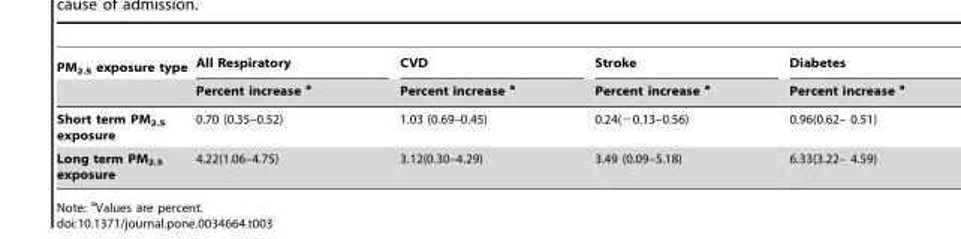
<table><thead><tr><td rowspan="2">PM<sub>2.5</sub> exposure type</td><td rowspan="2">All Respiratory Percent increase <sup>a</sup></td><td rowspan="2">CVD Percent increase <sup>a</sup></td><td rowspan="2">Stroke Percent increase <sup>a</sup></td><td rowspan="2">Diabetes Percent increase <sup>a</sup></td></tr><tr></tr></thead><tbody><tr><td>Short term PM<sub>2.5</sub> exposure</td><td>0.70 (0.35–0.52)</td><td>1.03 (0.69–0.45)</td><td>0.24(−0.13–0.56)</td><td>0.96(0.62– 0.51)</td></tr><tr><td>Long term PM<sub>2.5</sub> exposure</td><td>4.22(1.06–4.75)</td><td>3.12(0.30–4.29)</td><td>3.49 (0.09–5.18)</td><td>6.33(3.22– 4.59)</td></tr></tbody></table>